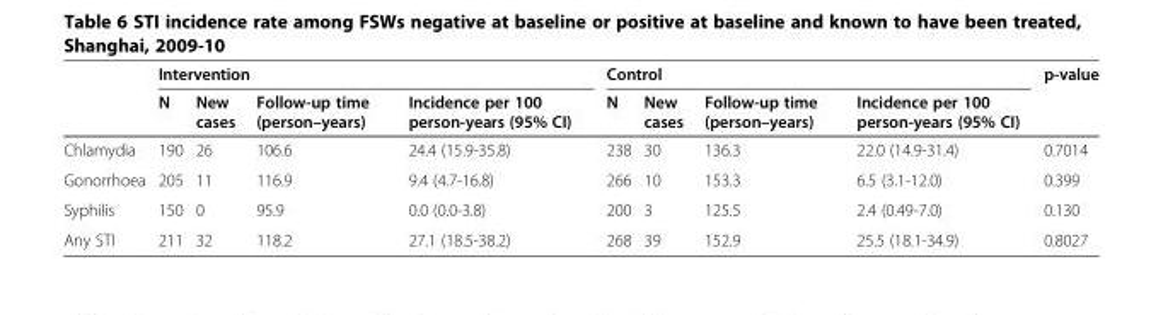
<table><thead><tr><td rowspan="2"></td><td colspan="4">Intervention</td><td colspan="4">Control</td><td rowspan="2">p-value</td></tr><tr><td>N</td><td>New cases</td><td>Follow-up time (person–years)</td><td>Incidence per 100 person-years (95% CI)</td><td>N</td><td>New cases</td><td>Follow-up time (person–years)</td><td>Incidence per 100 person-years (95% CI)</td></tr></thead><tbody><tr><td>Chlamydia</td><td>190</td><td>26</td><td>106.6</td><td>24.4 (15.9-35.8)</td><td>238</td><td>30</td><td>136.3</td><td>22.0 (14.9-31.4)</td><td>0.7014</td></tr><tr><td>Gonorrhoea</td><td>205</td><td>11</td><td>116.9</td><td>9.4 (4.7-16.8)</td><td>266</td><td>10</td><td>153.3</td><td>6.5 (3.1-12.0)</td><td>0.399</td></tr><tr><td>Syphilis</td><td>150</td><td>0</td><td>95.9</td><td>0.0 (0.0-3.8)</td><td>200</td><td>3</td><td>125.5</td><td>2.4 (0.49-7.0)</td><td>0.130</td></tr><tr><td>Any STI</td><td>211</td><td>32</td><td>118.2</td><td>27.1 (18.5-38.2)</td><td>268</td><td>39</td><td>152.9</td><td>25.5 (18.1-34.9)</td><td>0.8027</td></tr></tbody></table>